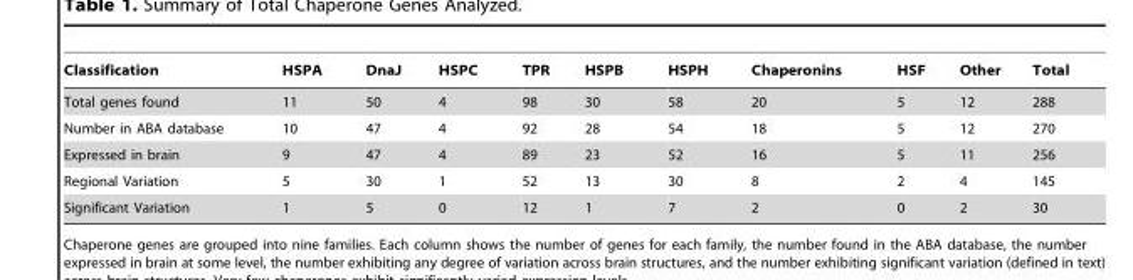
<table><thead><tr><td>Classification</td><td>HSPA</td><td>DnaJ</td><td>HSPC</td><td>TPR</td><td>HSPB</td><td>HSPH</td><td>Chaperonins</td><td>HSF</td><td>Other</td><td>Total</td></tr></thead><tbody><tr><td>Total genes found</td><td>11</td><td>50</td><td>4</td><td>98</td><td>30</td><td>58</td><td>20</td><td>5</td><td>12</td><td>288</td></tr><tr><td>Number in ABA database</td><td>10</td><td>47</td><td>4</td><td>92</td><td>28</td><td>54</td><td>18</td><td>5</td><td>12</td><td>270</td></tr><tr><td>Expressed in brain</td><td>9</td><td>47</td><td>4</td><td>89</td><td>23</td><td>52</td><td>16</td><td>5</td><td>11</td><td>256</td></tr><tr><td>Regional Variation</td><td>5</td><td>30</td><td>1</td><td>52</td><td>13</td><td>30</td><td>8</td><td>2</td><td>4</td><td>145</td></tr><tr><td>Significant Variation</td><td>1</td><td>5</td><td>0</td><td>12</td><td>1</td><td>7</td><td>2</td><td>0</td><td>2</td><td>30</td></tr></tbody></table>